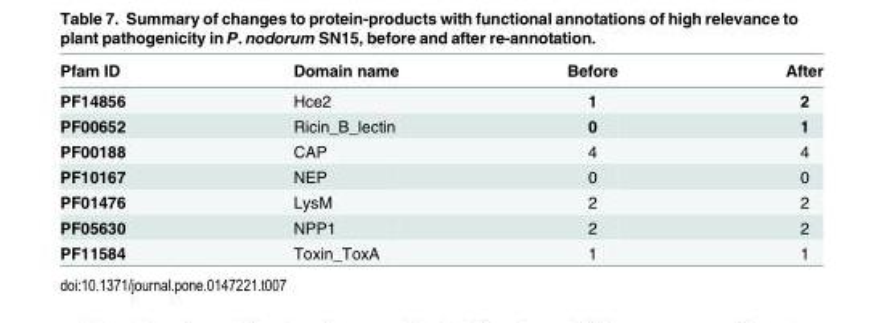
<table><thead><tr><td>Pfam ID</td><td>Domain name</td><td>Before</td><td>After</td></tr></thead><tbody><tr><td>PF14856</td><td>Hce2</td><td>1</td><td>2</td></tr><tr><td>PF00652</td><td>Ricin_B_lectin</td><td>0</td><td>1</td></tr><tr><td>PF00188</td><td>CAP</td><td>4</td><td>4</td></tr><tr><td>PF10167</td><td>NEP</td><td>0</td><td>0</td></tr><tr><td>PF01476</td><td>LysM</td><td>2</td><td>2</td></tr><tr><td>PF05630</td><td>NPP1</td><td>2</td><td>2</td></tr><tr><td>PF11584</td><td>Toxin_ToxA</td><td>1</td><td>1</td></tr></tbody></table>